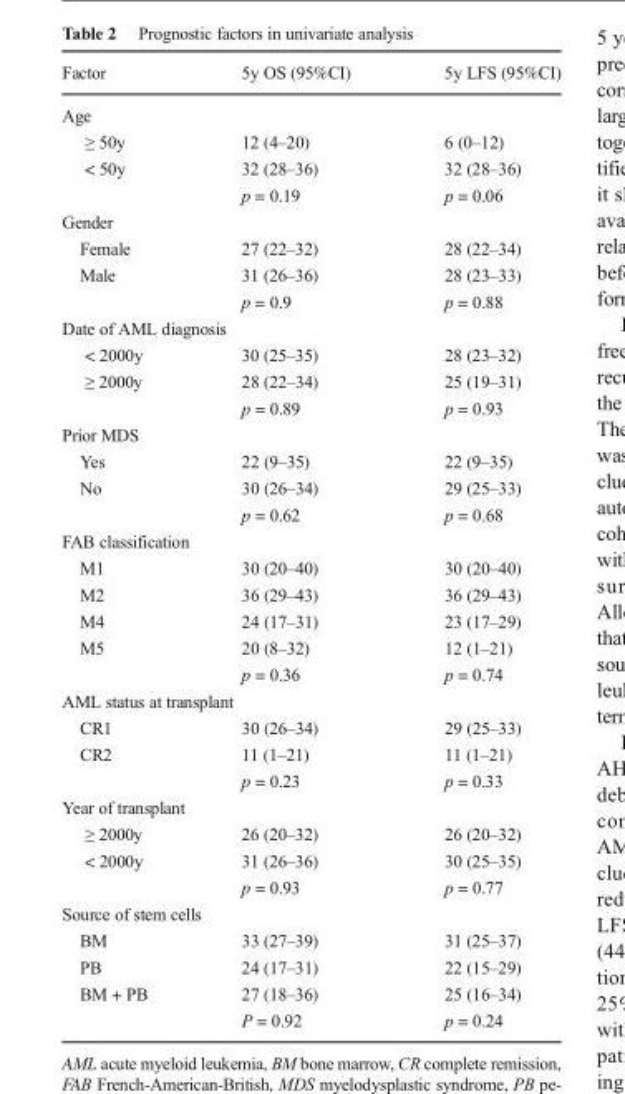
<table><thead><tr><td>Factor</td><td>5y OS (95%CI)</td><td>5y LFS (95%CI)</td></tr></thead><tbody><tr><td colspan="3">Age</td></tr><tr><td>≥ 50y</td><td>12 (4–20)</td><td>6 (0–12)</td></tr><tr><td rowspan="2">&lt; 50y</td><td>32 (28–36)</td><td>32 (28–36)</td></tr><tr><td>p = 0.19</td><td>p = 0.06</td></tr><tr><td colspan="3">Gender</td></tr><tr><td>Female</td><td>27 (22–32)</td><td>28 (22–34)</td></tr><tr><td rowspan="2">Male</td><td>31 (26–36)</td><td>28 (23–33)</td></tr><tr><td>p = 0.9</td><td>p = 0.88</td></tr><tr><td colspan="3">Date of AML diagnosis</td></tr><tr><td>&lt; 2000y</td><td>30 (25–35)</td><td>28 (23–32)</td></tr><tr><td rowspan="2">≥ 2000y</td><td>28 (22–34)</td><td>25 (19–31)</td></tr><tr><td>p = 0.89</td><td>p = 0.93</td></tr><tr><td colspan="3">Prior MDS</td></tr><tr><td>Yes</td><td>22 (9–35)</td><td>22 (9–35)</td></tr><tr><td rowspan="2">No</td><td>30 (26–34)</td><td>29 (25–33)</td></tr><tr><td>p = 0.62</td><td>p = 0.68</td></tr><tr><td colspan="3">FAB classification</td></tr><tr><td>M1</td><td>30 (20–40)</td><td>30 (20–40)</td></tr><tr><td>M2</td><td>36 (29–43)</td><td>36 (29–43)</td></tr><tr><td>M4</td><td>24 (17–31)</td><td>23 (17–29)</td></tr><tr><td rowspan="2">M5</td><td>20 (8–32)</td><td>12 (1–21)</td></tr><tr><td>p = 0.36</td><td>p = 0.74</td></tr><tr><td colspan="3">AML status at transplant</td></tr><tr><td>CR1</td><td>30 (26–34)</td><td>29 (25–33)</td></tr><tr><td rowspan="2">CR2</td><td>11 (1–21)</td><td>11 (1–21)</td></tr><tr><td>p = 0.23</td><td>p = 0.33</td></tr><tr><td colspan="3">Year of transplant</td></tr><tr><td>≥ 2000y</td><td>26 (20–32)</td><td>26 (20–32)</td></tr><tr><td rowspan="2">&lt; 2000y</td><td>31 (26–36)</td><td>30 (25–35)</td></tr><tr><td>p = 0.93</td><td>p = 0.77</td></tr><tr><td colspan="3">Source of stem cells</td></tr><tr><td>BM</td><td>33 (27–39)</td><td>31 (25–37)</td></tr><tr><td>PB</td><td>24 (17–31)</td><td>22 (15–29)</td></tr><tr><td rowspan="2">BM + PB</td><td>27 (18–36)</td><td>25 (16–34)</td></tr><tr><td>P = 0.92</td><td>p = 0.24</td></tr></tbody></table>